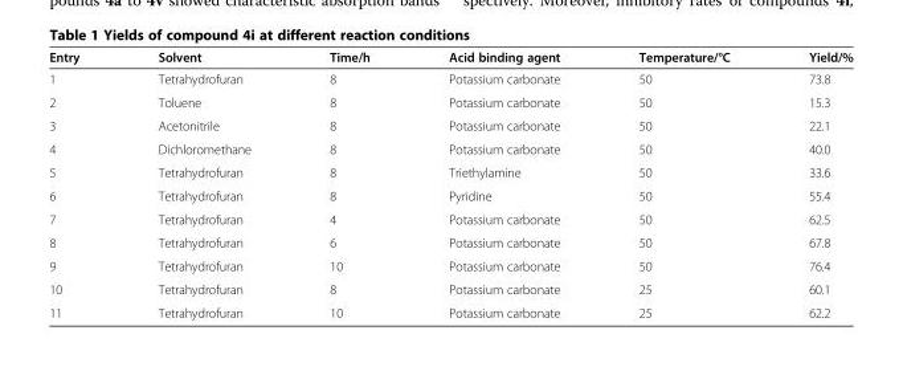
<table><thead><tr><td>Entry</td><td>Solvent</td><td>Time/h</td><td>Acid binding agent</td><td>Temperature/°C</td><td>Yield/%</td></tr></thead><tbody><tr><td>1</td><td>Tetrahydrofuran</td><td>8</td><td>Potassium carbonate</td><td>50</td><td>73.8</td></tr><tr><td>2</td><td>Toluene</td><td>8</td><td>Potassium carbonate</td><td>50</td><td>15.3</td></tr><tr><td>3</td><td>Acetonitrile</td><td>8</td><td>Potassium carbonate</td><td>50</td><td>22.1</td></tr><tr><td>4</td><td>Dichloromethane</td><td>8</td><td>Potassium carbonate</td><td>50</td><td>40.0</td></tr><tr><td>5</td><td>Tetrahydrofuran</td><td>8</td><td>Triethylamine</td><td>50</td><td>33.6</td></tr><tr><td>6</td><td>Tetrahydrofuran</td><td>8</td><td>Pyridine</td><td>50</td><td>55.4</td></tr><tr><td>7</td><td>Tetrahydrofuran</td><td>4</td><td>Potassium carbonate</td><td>50</td><td>62.5</td></tr><tr><td>8</td><td>Tetrahydrofuran</td><td>6</td><td>Potassium carbonate</td><td>50</td><td>67.8</td></tr><tr><td>9</td><td>Tetrahydrofuran</td><td>10</td><td>Potassium carbonate</td><td>50</td><td>76.4</td></tr><tr><td>10</td><td>Tetrahydrofuran</td><td>8</td><td>Potassium carbonate</td><td>25</td><td>60.1</td></tr><tr><td>11</td><td>Tetrahydrofuran</td><td>10</td><td>Potassium carbonate</td><td>25</td><td>62.2</td></tr></tbody></table>